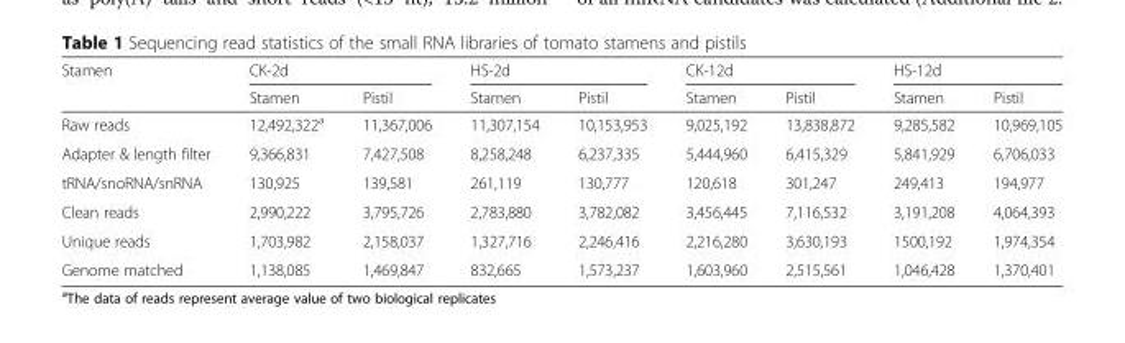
<table><thead><tr><td rowspan="2">Stamen</td><td colspan="2">CK-2d</td><td colspan="2">HS-2d</td><td colspan="2">CK-12d</td><td colspan="2">HS-12d</td></tr><tr><td>Stamen</td><td>Pistil</td><td>Stamen</td><td>Pistil</td><td>Stamen</td><td>Pistil</td><td>Stamen</td><td>Pistil</td></tr></thead><tbody><tr><td>Raw reads</td><td>12,492,322<sup>a</sup></td><td>11,367,006</td><td>11,307,154</td><td>10,153,953</td><td>9,025,192</td><td>13,838,872</td><td>9,285,582</td><td>10,969,105</td></tr><tr><td>Adapter &amp; length filter</td><td>9,366,831</td><td>7,427,508</td><td>8,258,248</td><td>6,237,335</td><td>5,444,960</td><td>6,415,329</td><td>5,841,929</td><td>6,706,033</td></tr><tr><td>tRNA/snoRNA/snRNA</td><td>130,925</td><td>139,581</td><td>261,119</td><td>130,777</td><td>120,618</td><td>301,247</td><td>249,413</td><td>194,977</td></tr><tr><td>Clean reads</td><td>2,990,222</td><td>3,795,726</td><td>2,783,880</td><td>3,782,082</td><td>3,456,445</td><td>7,116,532</td><td>3,191,208</td><td>4,064,393</td></tr><tr><td>Unique reads</td><td>1,703,982</td><td>2,158,037</td><td>1,327,716</td><td>2,246,416</td><td>2,216,280</td><td>3,630,193</td><td>1500,192</td><td>1,974,354</td></tr><tr><td>Genome matched</td><td>1,138,085</td><td>1,469,847</td><td>832,665</td><td>1,573,237</td><td>1,603,960</td><td>2,515,561</td><td>1,046,428</td><td>1,370,401</td></tr></tbody></table>